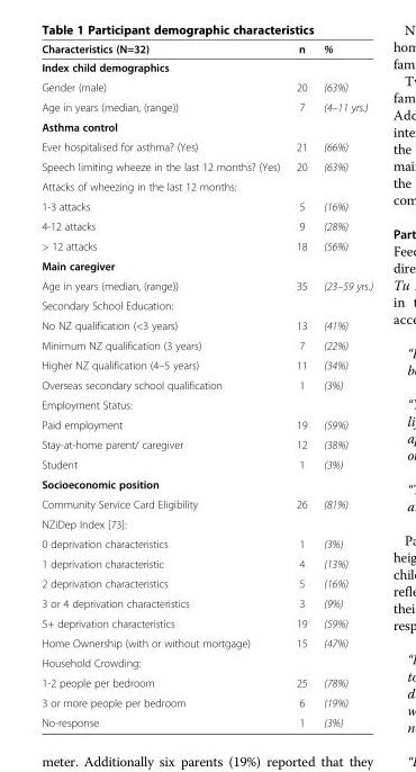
<table><thead><tr><td>Characteristics (N=32)</td><td>n</td><td>%</td></tr></thead><tbody><tr><td colspan="3">Index child demographics</td></tr><tr><td>Gender (male)</td><td>20</td><td>(63%)</td></tr><tr><td>Age in years (median, (range))</td><td>7</td><td>(4–11 yrs.)</td></tr><tr><td colspan="3">Asthma control</td></tr><tr><td>Ever hospitalised for asthma? (Yes)</td><td>21</td><td>(66%)</td></tr><tr><td>Speech limiting wheeze in the last 12 months? (Yes)</td><td>20</td><td>(63%)</td></tr><tr><td colspan="3">Attacks of wheezing in the last 12 months:</td></tr><tr><td>1-3 attacks</td><td>5</td><td>(16%)</td></tr><tr><td>4-12 attacks</td><td>9</td><td>(28%)</td></tr><tr><td>&gt; 12 attacks</td><td>18</td><td>(56%)</td></tr><tr><td colspan="3">Main caregiver</td></tr><tr><td>Age in years (median, (range))</td><td>35</td><td>(23–59 yrs.)</td></tr><tr><td colspan="3">Secondary School Education:</td></tr><tr><td>No NZ qualification (&lt;3 years)</td><td>13</td><td>(41%)</td></tr><tr><td>Minimum NZ qualification (3 years)</td><td>7</td><td>(22%)</td></tr><tr><td>Higher NZ qualification (4–5 years)</td><td>11</td><td>(34%)</td></tr><tr><td>Overseas secondary school qualification</td><td>1</td><td>(3%)</td></tr><tr><td colspan="3">Employment Status:</td></tr><tr><td>Paid employment</td><td>19</td><td>(59%)</td></tr><tr><td>Stay-at-home parent/ caregiver</td><td>12</td><td>(38%)</td></tr><tr><td>Student</td><td>1</td><td>(3%)</td></tr><tr><td colspan="3">Socioeconomic position</td></tr><tr><td>Community Service Card Eligibility</td><td>26</td><td>(81%)</td></tr><tr><td colspan="3">NZiDep Index [73]:</td></tr><tr><td>0 deprivation characteristics</td><td>1</td><td>(3%)</td></tr><tr><td>1 deprivation characteristic</td><td>4</td><td>(13%)</td></tr><tr><td>2 deprivation characteristics</td><td>5</td><td>(16%)</td></tr><tr><td>3 or 4 deprivation characteristics</td><td>3</td><td>(9%)</td></tr><tr><td>5+ deprivation characteristics</td><td>19</td><td>(59%)</td></tr><tr><td>Home Ownership (with or without mortgage)</td><td>15</td><td>(47%)</td></tr><tr><td colspan="3">Household Crowding:</td></tr><tr><td>1-2 people per bedroom</td><td>25</td><td>(78%)</td></tr><tr><td>3 or more people per bedroom</td><td>6</td><td>(19%)</td></tr><tr><td>No-response</td><td>1</td><td>(3%)</td></tr></tbody></table>